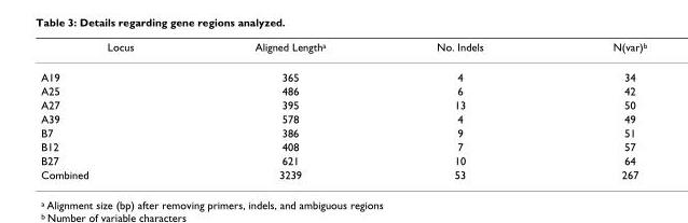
<table><thead><tr><td>Locus</td><td>Aligned Length<sup>a</sup></td><td>No. Indels</td><td>N(var)<sup>b</sup></td></tr></thead><tbody><tr><td>A19</td><td>365</td><td>4</td><td>34</td></tr><tr><td>A25</td><td>486</td><td>6</td><td>42</td></tr><tr><td>A27</td><td>395</td><td>13</td><td>50</td></tr><tr><td>A39</td><td>578</td><td>4</td><td>49</td></tr><tr><td>B7</td><td>386</td><td>9</td><td>51</td></tr><tr><td>B12</td><td>408</td><td>7</td><td>57</td></tr><tr><td>B27</td><td>621</td><td>10</td><td>64</td></tr><tr><td>Combined</td><td>3239</td><td>53</td><td>267</td></tr></tbody></table>